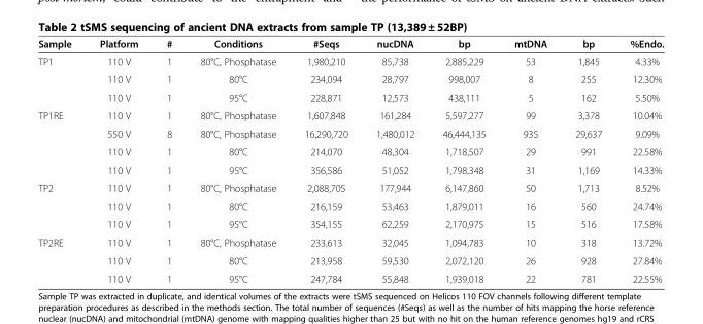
<table><thead><tr><td>Sample</td><td>Platform</td><td>#</td><td>Conditions</td><td>#Seqs</td><td>nucDNA</td><td>bp</td><td>mtDNA</td><td>bp</td><td>%Endo.</td></tr></thead><tbody><tr><td rowspan="3">TP1</td><td>110 V</td><td>1</td><td>80°C, Phosphatase</td><td>1,980,210</td><td>85,738</td><td>2,885,229</td><td>53</td><td>1,845</td><td>4.33%</td></tr><tr><td>110 V</td><td>1</td><td>80°C</td><td>234,094</td><td>28,797</td><td>998,007</td><td>8</td><td>255</td><td>12.30%</td></tr><tr><td>110 V</td><td>1</td><td>95°C</td><td>228,871</td><td>12,573</td><td>438,111</td><td>5</td><td>162</td><td>5.50%</td></tr><tr><td rowspan="4">TP1RE</td><td>110 V</td><td>1</td><td>80°C, Phosphatase</td><td>1,607,848</td><td>161,284</td><td>5,597,277</td><td>99</td><td>3,378</td><td>10.04%</td></tr><tr><td>550 V</td><td>8</td><td>80°C, Phosphatase</td><td>16,290,720</td><td>1,480,012</td><td>46,444,135</td><td>935</td><td>29,637</td><td>9.09%</td></tr><tr><td>110 V</td><td>1</td><td>80°C</td><td>214,070</td><td>48,304</td><td>1,718,507</td><td>29</td><td>991</td><td>22.58%</td></tr><tr><td>110 V</td><td>1</td><td>95°C</td><td>356,586</td><td>51,052</td><td>1,798,348</td><td>31</td><td>1,169</td><td>14.33%</td></tr><tr><td rowspan="3">TP2</td><td>110 V</td><td>1</td><td>80°C, Phosphatase</td><td>2,088,705</td><td>177,944</td><td>6,147,860</td><td>50</td><td>1,713</td><td>8.52%</td></tr><tr><td>110 V</td><td>1</td><td>80°C</td><td>216,159</td><td>53,463</td><td>1,879,011</td><td>16</td><td>560</td><td>24.74%</td></tr><tr><td>110 V</td><td>1</td><td>95°C</td><td>354,155</td><td>62,259</td><td>2,170,975</td><td>15</td><td>516</td><td>17.58%</td></tr><tr><td rowspan="3">TP2RE</td><td>110 V</td><td>1</td><td>80°C, Phosphatase</td><td>233,613</td><td>32,045</td><td>1,094,783</td><td>10</td><td>318</td><td>13.72%</td></tr><tr><td>110 V</td><td>1</td><td>80°C</td><td>213,958</td><td>59,530</td><td>2,072,120</td><td>26</td><td>928</td><td>27.84%</td></tr><tr><td>110 V</td><td>1</td><td>95°C</td><td>247,784</td><td>55,848</td><td>1,939,018</td><td>22</td><td>781</td><td>22.55%</td></tr></tbody></table>